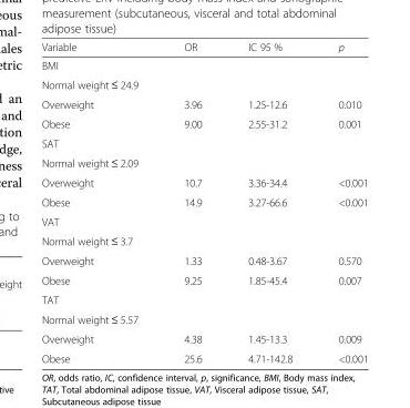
<table><thead><tr><td>Variable</td><td>OR</td><td>IC 95 %</td><td>p</td></tr></thead><tbody><tr><td colspan="4">BMI</td></tr><tr><td colspan="4">Normal weight ≤ 24.9</td></tr><tr><td>Overweight</td><td>3.96</td><td>1.25-12.6</td><td>0.010</td></tr><tr><td>Obese</td><td>9.00</td><td>2.55-31.2</td><td>0.001</td></tr><tr><td colspan="4">SAT</td></tr><tr><td colspan="4">Normal weight ≤ 2.09</td></tr><tr><td>Overweight</td><td>10.7</td><td>3.36-34.4</td><td>&lt;0.001</td></tr><tr><td>Obese</td><td>14.9</td><td>3.27-66.6</td><td>&lt;0.001</td></tr><tr><td colspan="4">VAT</td></tr><tr><td colspan="4">Normal weight ≤ 3.7</td></tr><tr><td>Overweight</td><td>1.33</td><td>0.48-3.67</td><td>0.570</td></tr><tr><td>Obese</td><td>9.25</td><td>1.85-45.4</td><td>0.007</td></tr><tr><td colspan="4">TAT</td></tr><tr><td colspan="4">Normal weight ≤ 5.57</td></tr><tr><td>Overweight</td><td>4.38</td><td>1.45-13.3</td><td>0.009</td></tr><tr><td>Obese</td><td>25.6</td><td>4.71-142.8</td><td>&lt;0.001</td></tr></tbody></table>